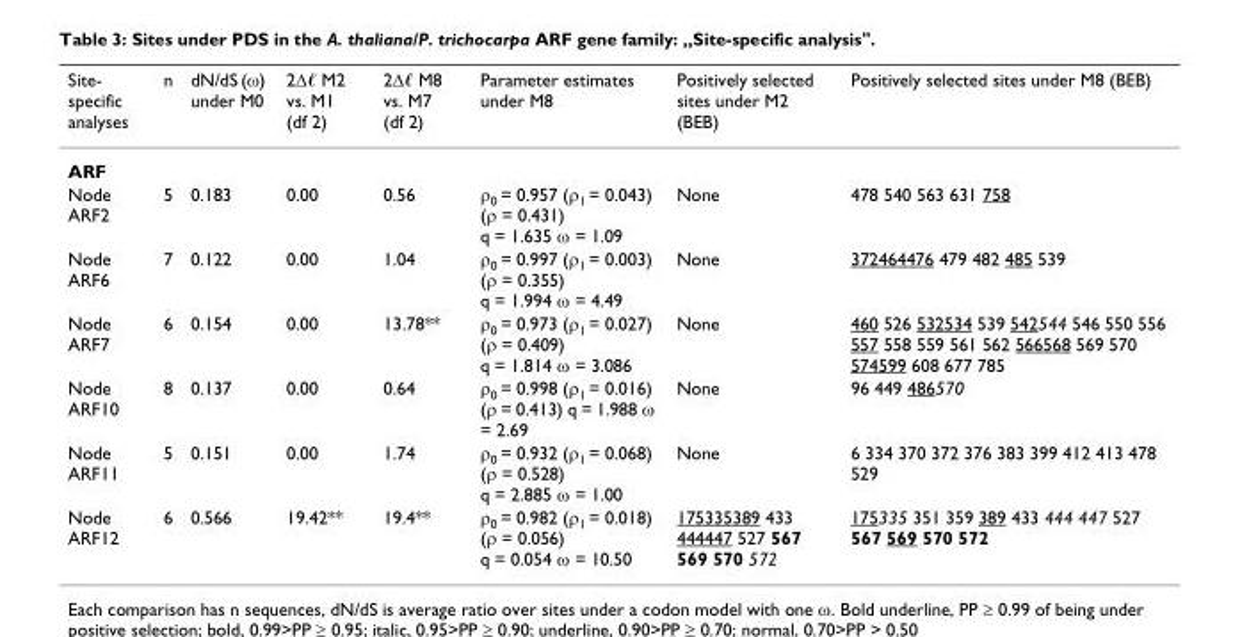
<table><thead><tr><td>Site- specific analyses</td><td>n</td><td>dN/dS (ω) under M0</td><td>2Δℓ M2 vs. M1 (df 2)</td><td>2Δℓ M8 vs. M7 (df 2)</td><td>Parameter estimates under M8</td><td>Positively selected sites under M2 (BEB)</td><td>Positively selected sites under M8 (BEB)</td></tr></thead><tbody><tr><td colspan="8">ARF</td></tr><tr><td>Node ARF2</td><td>5</td><td>0.183</td><td>0.00</td><td>0.56</td><td>ρ<sub>0</sub> = 0.957 (ρ<sub>1</sub> = 0.043) (ρ = 0.431) q = 1.635 ω = 1.09</td><td>None</td><td>478 540 563 631 758</td></tr><tr><td>Node ARF6</td><td>7</td><td>0.122</td><td>0.00</td><td>1.04</td><td>ρ<sub>0</sub> = 0.997 (ρ<sub>1</sub> = 0.003) (ρ = 0.355) q = 1.994 ω = 4.49</td><td>None</td><td>372464476 479 482 485 539</td></tr><tr><td>Node ARF7</td><td>6</td><td>0.154</td><td>0.00</td><td>13.78**</td><td>ρ<sub>0</sub> = 0.973 (ρ<sub>1</sub> = 0.027) (ρ = 0.409) q = 1.814 ω = 3.086</td><td>None</td><td>460 526 532534 539 542544 546 550 556 557 558 559 561 562 566568 569 570 574599 608 677 785</td></tr><tr><td>Node ARF10</td><td>8</td><td>0.137</td><td>0.00</td><td>0.64</td><td>ρ<sub>0</sub> = 0.998 (ρ<sub>1</sub> = 0.016) (ρ = 0.413) q = 1.988 ω = 2.69</td><td>None</td><td>96 449 486570</td></tr><tr><td>Node ARF11</td><td>5</td><td>0.151</td><td>0.00</td><td>1.74</td><td>ρ<sub>0</sub> = 0.932 (ρ<sub>1</sub> = 0.068) (ρ = 0.528) q = 2.885 ω = 1.00</td><td>None</td><td>6 334 370 372 376 383 399 412 413 478 529</td></tr><tr><td>Node ARF12</td><td>6</td><td>0.566</td><td>19.42**</td><td>19.4**</td><td>ρ<sub>0</sub> = 0.982 (ρ<sub>1</sub> = 0.018) (ρ = 0.056) q = 0.054 ω = 10.50</td><td>175335389 433 444447 527 567 569 570 572</td><td>175335 351 359 389 433 444 447 527 567 569 570 572</td></tr></tbody></table>